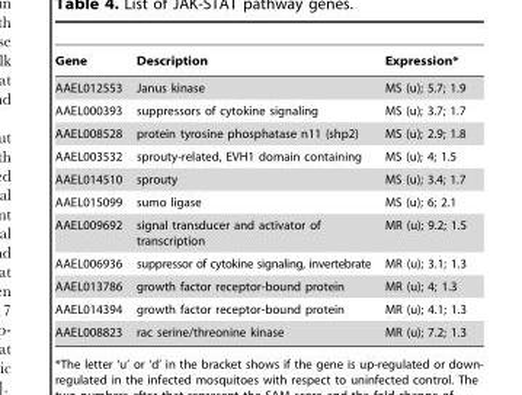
<table><thead><tr><td>Gene</td><td>Description</td><td>Expression*</td></tr></thead><tbody><tr><td>AAEL012553</td><td>Janus kinase</td><td>MS (u); 5.7; 1.9</td></tr><tr><td>AAEL000393</td><td>suppressors of cytokine signaling</td><td>MS (u); 3.7; 1.7</td></tr><tr><td>AAEL008528</td><td>protein tyrosine phosphatase n11 (shp2)</td><td>MS (u); 2.9; 1.8</td></tr><tr><td>AAEL003532</td><td>sprouty-related, EVH1 domain containing</td><td>MS (u); 4; 1.5</td></tr><tr><td>AAEL014510</td><td>sprouty</td><td>MS (u); 3.4; 1.7</td></tr><tr><td>AAEL015099</td><td>sumo ligase</td><td>MS (u); 6; 2.1</td></tr><tr><td>AAEL009692</td><td>signal transducer and activator of transcription</td><td>MR (u); 9.2; 1.5</td></tr><tr><td>AAEL006936</td><td>suppressor of cytokine signaling, invertebrate</td><td>MR (u); 3.1; 1.3</td></tr><tr><td>AAEL013786</td><td>growth factor receptor-bound protein</td><td>MR (u); 4; 1.3</td></tr><tr><td>AAEL014394</td><td>growth factor receptor-bound protein</td><td>MR (u); 4.1; 1.3</td></tr><tr><td>AAEL008823</td><td>rac serine/threonine kinase</td><td>MR (u); 7.2; 1.3</td></tr></tbody></table>